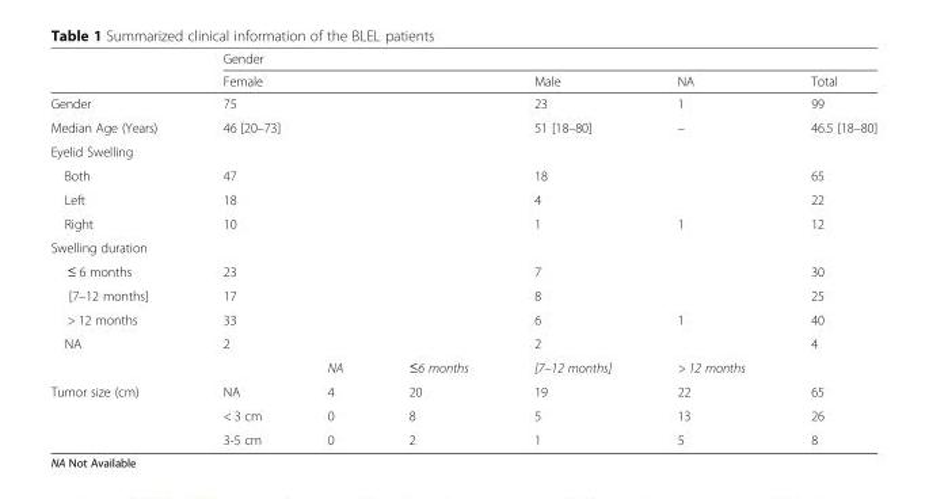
<table><thead><tr><td rowspan="2"></td><td colspan="6">Gender</td></tr><tr><td colspan="3">Female</td><td>Male</td><td>NA</td><td>Total</td></tr></thead><tbody><tr><td>Gender</td><td colspan="3">75</td><td>23</td><td>1</td><td>99</td></tr><tr><td>Median Age (Years)</td><td colspan="3">46 [20–73]</td><td>51 [18–80]</td><td>–</td><td>46.5 [18–80]</td></tr><tr><td colspan="7">Eyelid Swelling</td></tr><tr><td>Both</td><td colspan="3">47</td><td>18</td><td></td><td>65</td></tr><tr><td>Left</td><td colspan="3">18</td><td>4</td><td></td><td>22</td></tr><tr><td>Right</td><td colspan="3">10</td><td>1</td><td>1</td><td>12</td></tr><tr><td colspan="7">Swelling duration</td></tr><tr><td>≤ 6 months</td><td colspan="3">23</td><td>7</td><td></td><td>30</td></tr><tr><td>[7–12 months]</td><td colspan="3">17</td><td>8</td><td></td><td>25</td></tr><tr><td>&gt; 12 months</td><td colspan="3">33</td><td>6</td><td>1</td><td>40</td></tr><tr><td>NA</td><td colspan="3">2</td><td>2</td><td></td><td>4</td></tr><tr><td colspan="2"></td><td>NA</td><td>≤6 months</td><td>[7–12 months]</td><td>&gt; 12 months</td><td></td></tr><tr><td rowspan="3">Tumor size (cm)</td><td>NA</td><td>4</td><td>20</td><td>19</td><td>22</td><td>65</td></tr><tr><td>&lt; 3 cm</td><td>0</td><td>8</td><td>5</td><td>13</td><td>26</td></tr><tr><td>3-5 cm</td><td>0</td><td>2</td><td>1</td><td>5</td><td>8</td></tr></tbody></table>